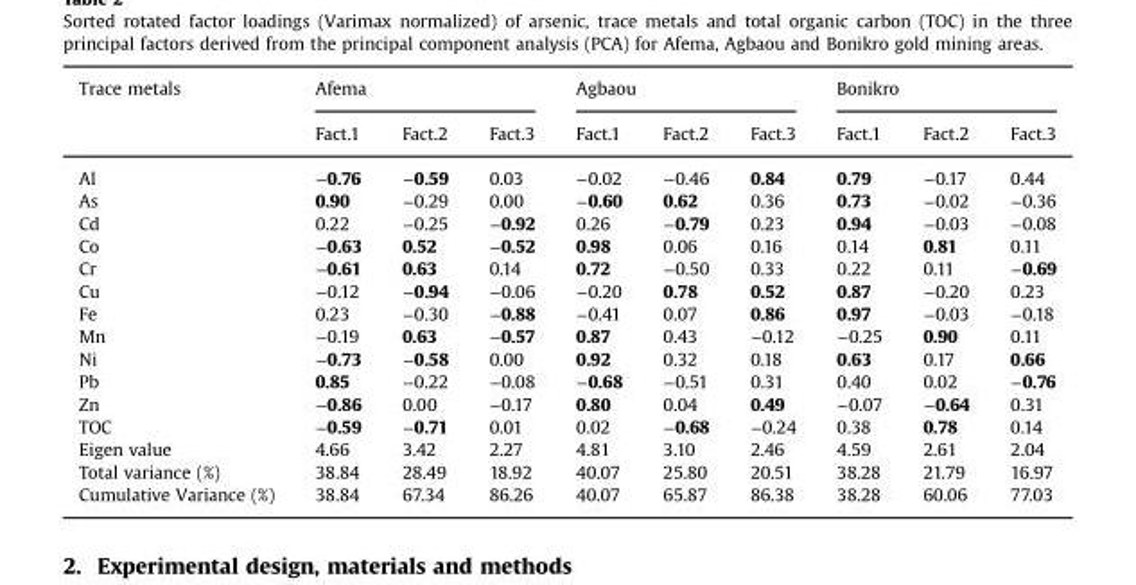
<table><thead><tr><td rowspan="2">Trace metals</td><td colspan="3">Afema</td><td colspan="3">Agbaou</td><td colspan="3">Bonikro</td></tr><tr><td>Fact.1</td><td>Fact.2</td><td>Fact.3</td><td>Fact.1</td><td>Fact.2</td><td>Fact.3</td><td>Fact.1</td><td>Fact.2</td><td>Fact.3</td></tr></thead><tbody><tr><td>Al</td><td>−0.76</td><td>−0.59</td><td>0.03</td><td>−0.02</td><td>−0.46</td><td>0.84</td><td>0.79</td><td>−0.17</td><td>0.44</td></tr><tr><td>As</td><td>0.90</td><td>−0.29</td><td>0.00</td><td>−0.60</td><td>0.62</td><td>0.36</td><td>0.73</td><td>−0.02</td><td>−0.36</td></tr><tr><td>Cd</td><td>0.22</td><td>−0.25</td><td>−0.92</td><td>0.26</td><td>−0.79</td><td>0.23</td><td>0.94</td><td>−0.03</td><td>−0.08</td></tr><tr><td>Co</td><td>−0.63</td><td>0.52</td><td>−0.52</td><td>0.98</td><td>0.06</td><td>0.16</td><td>0.14</td><td>0.81</td><td>0.11</td></tr><tr><td>Cr</td><td>−0.61</td><td>0.63</td><td>0.14</td><td>0.72</td><td>−0.50</td><td>0.33</td><td>0.22</td><td>0.11</td><td>−0.69</td></tr><tr><td>Cu</td><td>−0.12</td><td>−0.94</td><td>−0.06</td><td>−0.20</td><td>0.78</td><td>0.52</td><td>0.87</td><td>−0.20</td><td>0.23</td></tr><tr><td>Fe</td><td>0.23</td><td>−0.30</td><td>−0.88</td><td>−0.41</td><td>0.07</td><td>0.86</td><td>0.97</td><td>−0.03</td><td>−0.18</td></tr><tr><td>Mn</td><td>−0.19</td><td>0.63</td><td>−0.57</td><td>0.87</td><td>0.43</td><td>−0.12</td><td>−0.25</td><td>0.90</td><td>0.11</td></tr><tr><td>Ni</td><td>−0.73</td><td>−0.58</td><td>0.00</td><td>0.92</td><td>0.32</td><td>0.18</td><td>0.63</td><td>0.17</td><td>0.66</td></tr><tr><td>Pb</td><td>0.85</td><td>−0.22</td><td>−0.08</td><td>−0.68</td><td>−0.51</td><td>0.31</td><td>0.40</td><td>0.02</td><td>−0.76</td></tr><tr><td>Zn</td><td>−0.86</td><td>0.00</td><td>−0.17</td><td>0.80</td><td>0.04</td><td>0.49</td><td>−0.07</td><td>−0.64</td><td>0.31</td></tr><tr><td>TOC</td><td>−0.59</td><td>−0.71</td><td>0.01</td><td>0.02</td><td>−0.68</td><td>−0.24</td><td>0.38</td><td>0.78</td><td>0.14</td></tr><tr><td>Eigen value</td><td>4.66</td><td>3.42</td><td>2.27</td><td>4.81</td><td>3.10</td><td>2.46</td><td>4.59</td><td>2.61</td><td>2.04</td></tr><tr><td>Total variance (%)</td><td>38.84</td><td>28.49</td><td>18.92</td><td>40.07</td><td>25.80</td><td>20.51</td><td>38.28</td><td>21.79</td><td>16.97</td></tr><tr><td>Cumulative Variance (%)</td><td>38.84</td><td>67.34</td><td>86.26</td><td>40.07</td><td>65.87</td><td>86.38</td><td>38.28</td><td>60.06</td><td>77.03</td></tr></tbody></table>